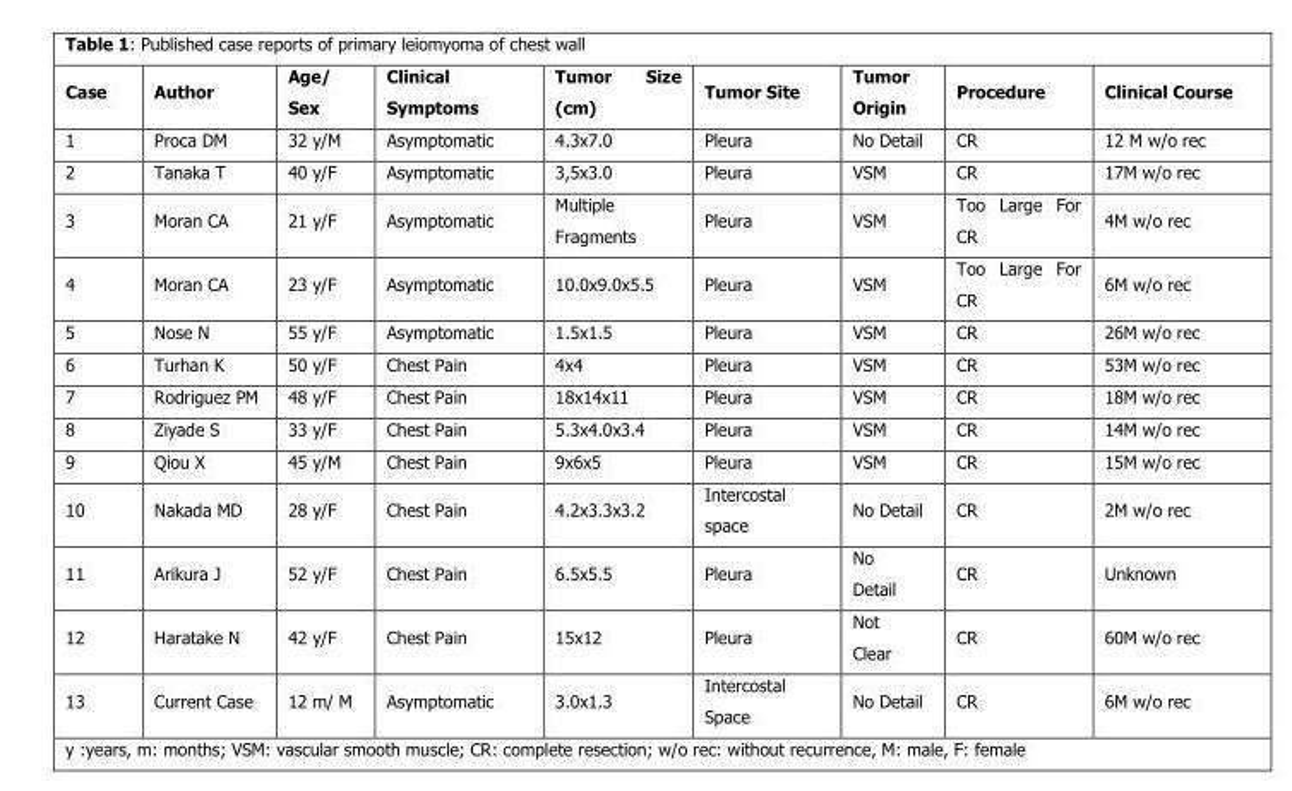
<table><thead><tr><td>Case</td><td>Author</td><td>Age/ Sex</td><td>Clinical Symptoms</td><td>Tumor Size (cm)</td><td>Tumor Site</td><td>Tumor Origin</td><td>Procedure</td><td>Clinical Course</td></tr></thead><tbody><tr><td>1</td><td>Proca DM</td><td>32 y/M</td><td>Asymptomatic</td><td>4.3x7.0</td><td>Pleura</td><td>No Detail</td><td>CR</td><td>12 M w/o rec</td></tr><tr><td>2</td><td>Tanaka T</td><td>40 y/F</td><td>Asymptomatic</td><td>3,5x3.0</td><td>Pleura</td><td>VSM</td><td>CR</td><td>17M w/o rec</td></tr><tr><td>3</td><td>Moran CA</td><td>21 y/F</td><td>Asymptomatic</td><td>Multiple Fragments</td><td>Pleura</td><td>VSM</td><td>Too Large For CR</td><td>4M w/o rec</td></tr><tr><td>4</td><td>Moran CA</td><td>23 y/F</td><td>Asymptomatic</td><td>10.0x9.0x5.5</td><td>Pleura</td><td>VSM</td><td>Too Large For CR</td><td>6M w/o rec</td></tr><tr><td>5</td><td>Nose N</td><td>55 y/F</td><td>Asymptomatic</td><td>1.5x1.5</td><td>Pleura</td><td>VSM</td><td>CR</td><td>26M w/o rec</td></tr><tr><td>6</td><td>Turhan K</td><td>50 y/F</td><td>Chest Pain</td><td>4x4</td><td>Pleura</td><td>VSM</td><td>CR</td><td>53M w/o rec</td></tr><tr><td>7</td><td>Rodriguez PM</td><td>48 y/F</td><td>Chest Pain</td><td>18x14x11</td><td>Pleura</td><td>VSM</td><td>CR</td><td>18M w/o rec</td></tr><tr><td>8</td><td>Ziyade S</td><td>33 y/F</td><td>Chest Pain</td><td>5.3x4.0x3.4</td><td>Pleura</td><td>VSM</td><td>CR</td><td>14M w/o rec</td></tr><tr><td>9</td><td>Qiou X</td><td>45 y/M</td><td>Chest Pain</td><td>9x6x5</td><td>Pleura</td><td>VSM</td><td>CR</td><td>15M w/o rec</td></tr><tr><td>10</td><td>Nakada MD</td><td>28 y/F</td><td>Chest Pain</td><td>4.2x3.3x3.2</td><td>Intercostal space</td><td>No Detail</td><td>CR</td><td>2M w/o rec</td></tr><tr><td>11</td><td>Arikura J</td><td>52 y/F</td><td>Chest Pain</td><td>6.5x5.5</td><td>Pleura</td><td>No Detail</td><td>CR</td><td>Unknown</td></tr><tr><td>12</td><td>Haratake N</td><td>42 y/F</td><td>Chest Pain</td><td>15x12</td><td>Pleura</td><td>Not Clear</td><td>CR</td><td>60M w/o rec</td></tr><tr><td>13</td><td>Current Case</td><td>12 m/ M</td><td>Asymptomatic</td><td>3.0x1.3</td><td>Intercostal Space</td><td>No Detail</td><td>CR</td><td>6M w/o rec</td></tr></tbody></table>